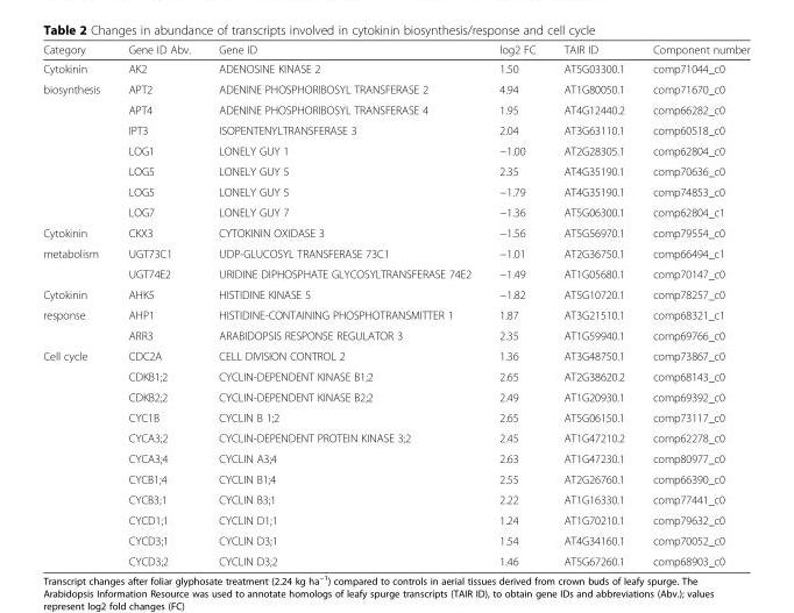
<table><thead><tr><td>Category</td><td>Gene ID Abv.</td><td>Gene ID</td><td>log2 FC</td><td>TAIR ID</td><td>Component number</td></tr></thead><tbody><tr><td>Cytokinin</td><td>AK2</td><td>ADENOSINE KINASE 2</td><td>1.50</td><td>AT5G03300.1</td><td>comp71044_c0</td></tr><tr><td rowspan="7">biosynthesis</td><td>APT2</td><td>ADENINE PHOSPHORIBOSYL TRANSFERASE 2</td><td>4.94</td><td>AT1G80050.1</td><td>comp71670_c0</td></tr><tr><td>APT4</td><td>ADENINE PHOSPHORIBOSYL TRANSFERASE 4</td><td>1.95</td><td>AT4G12440.2</td><td>comp66282_c0</td></tr><tr><td>IPT3</td><td>ISOPENTENYLTRANSFERASE 3</td><td>2.04</td><td>AT3G63110.1</td><td>comp60518_c0</td></tr><tr><td>LOG1</td><td>LONELY GUY 1</td><td>−1.00</td><td>AT2G28305.1</td><td>comp62804_c0</td></tr><tr><td>LOG5</td><td>LONELY GUY 5</td><td>2.35</td><td>AT4G35190.1</td><td>comp70636_c0</td></tr><tr><td>LOG5</td><td>LONELY GUY 5</td><td>−1.79</td><td>AT4G35190.1</td><td>comp74853_c0</td></tr><tr><td>LOG7</td><td>LONELY GUY 7</td><td>−1.36</td><td>AT5G06300.1</td><td>comp62804_c1</td></tr><tr><td>Cytokinin</td><td>CKX3</td><td>CYTOKININ OXIDASE 3</td><td>−1.56</td><td>AT5G56970.1</td><td>comp79554_c0</td></tr><tr><td rowspan="2">metabolism</td><td>UGT73C1</td><td>UDP-GLUCOSYL TRANSFERASE 73C1</td><td>−1.01</td><td>AT2G36750.1</td><td>comp66494_c1</td></tr><tr><td>UGT74E2</td><td>URIDINE DIPHOSPHATE GLYCOSYLTRANSFERASE 74E2</td><td>−1.49</td><td>AT1G05680.1</td><td>comp70147_c0</td></tr><tr><td>Cytokinin</td><td>AHK5</td><td>HISTIDINE KINASE 5</td><td>−1.82</td><td>AT5G10720.1</td><td>comp78257_c0</td></tr><tr><td rowspan="2">response</td><td>AHP1</td><td>HISTIDINE-CONTAINING PHOSPHOTRANSMITTER 1</td><td>1.87</td><td>AT3G21510.1</td><td>comp68321_c1</td></tr><tr><td>ARR3</td><td>ARABIDOPSIS RESPONSE REGULATOR 3</td><td>2.35</td><td>AT1G59940.1</td><td>comp69766_c0</td></tr><tr><td rowspan="11">Cell cycle</td><td>CDC2A</td><td>CELL DIVISION CONTROL 2</td><td>1.36</td><td>AT3G48750.1</td><td>comp73867_c0</td></tr><tr><td>CDKB1;2</td><td>CYCLIN-DEPENDENT KINASE B1;2</td><td>2.65</td><td>AT2G38620.2</td><td>comp68143_c0</td></tr><tr><td>CDKB2;2</td><td>CYCLIN-DEPENDENT KINASE B2;2</td><td>2.49</td><td>AT1G20930.1</td><td>comp69392_c0</td></tr><tr><td>CYC1B</td><td>CYCLIN B 1;2</td><td>2.65</td><td>AT5G06150.1</td><td>comp73117_c0</td></tr><tr><td>CYCA3;2</td><td>CYCLIN-DEPENDENT PROTEIN KINASE 3;2</td><td>2.45</td><td>AT1G47210.2</td><td>comp62278_c0</td></tr><tr><td>CYCA3;4</td><td>CYCLIN A3;4</td><td>2.63</td><td>AT1G47230.1</td><td>comp80977_c0</td></tr><tr><td>CYCB1;4</td><td>CYCLIN B1;4</td><td>2.55</td><td>AT2G26760.1</td><td>comp66390_c0</td></tr><tr><td>CYCB3;1</td><td>CYCLIN B3;1</td><td>2.22</td><td>AT1G16330.1</td><td>comp77441_c0</td></tr><tr><td>CYCD1;1</td><td>CYCLIN D1;1</td><td>1.24</td><td>AT1G70210.1</td><td>comp79632_c0</td></tr><tr><td>CYCD3;1</td><td>CYCLIN D3;1</td><td>1.54</td><td>AT4G34160.1</td><td>comp70052_c0</td></tr><tr><td>CYCD3;2</td><td>CYCLIN D3;2</td><td>1.46</td><td>AT5G67260.1</td><td>comp68903_c0</td></tr></tbody></table>